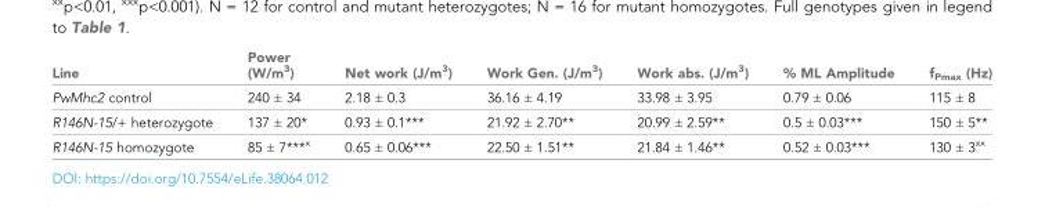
<table><thead><tr><td>Line</td><td>Power (W/m<sup>3</sup>)</td><td>Net work (J/m<sup>3</sup>)</td><td>Work Gen. (J/m<sup>3</sup>)</td><td>Work abs. (J/m<sup>3</sup>)</td><td>% ML Amplitude</td><td>f<sub>Pmax</sub> (Hz)</td></tr></thead><tbody><tr><td>PwMhc2 control</td><td>240 ± 34</td><td>2.18 ± 0.3</td><td>36.16 ± 4.19</td><td>33.98 ± 3.95</td><td>0.79 ± 0.06</td><td>115 ± 8</td></tr><tr><td>R146N-15/+ heterozygote</td><td>137 ± 20*</td><td>0.93 ± 0.1***</td><td>21.92 ± 2.70**</td><td>20.99 ± 2.59**</td><td>0.5 ± 0.03***</td><td>150 ± 5**</td></tr><tr><td>R146N-15 homozygote</td><td>85 ± 7***<sup>x</sup></td><td>0.65 ± 0.06***</td><td>22.50 ± 1.51**</td><td>21.84 ± 1.46**</td><td>0.52 ± 0.03***</td><td>130 ± 3<sup>xx</sup></td></tr></tbody></table>